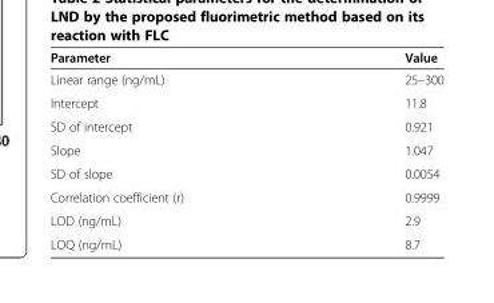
<table><thead><tr><td>Parameter</td><td>Value</td></tr></thead><tbody><tr><td>Linear range (ng/mL)</td><td>25–300</td></tr><tr><td>Intercept</td><td>11.8</td></tr><tr><td>SD of intercept</td><td>0.921</td></tr><tr><td>Slope</td><td>1.047</td></tr><tr><td>SD of slope</td><td>0.0054</td></tr><tr><td>Correlation coefficient (r)</td><td>0.9999</td></tr><tr><td>LOD (ng/mL)</td><td>2.9</td></tr><tr><td>LOQ (ng/mL)</td><td>8.7</td></tr></tbody></table>